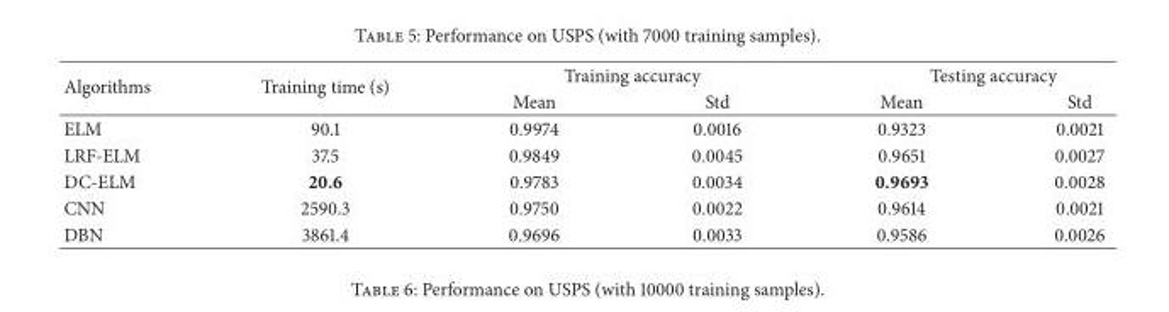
<table><thead><tr><td rowspan="2">Algorithms</td><td rowspan="2">Training time (s)</td><td colspan="2">Training accuracy</td><td colspan="2">Testing accuracy</td></tr><tr><td>Mean</td><td>Std</td><td>Mean</td><td>Std</td></tr></thead><tbody><tr><td>ELM</td><td>90.1</td><td>0.9974</td><td>0.0016</td><td>0.9323</td><td>0.0021</td></tr><tr><td>LRF-ELM</td><td>37.5</td><td>0.9849</td><td>0.0045</td><td>0.9651</td><td>0.0027</td></tr><tr><td>DC-ELM</td><td>20.6</td><td>0.9783</td><td>0.0034</td><td>0.9693</td><td>0.0028</td></tr><tr><td>CNN</td><td>2590.3</td><td>0.9750</td><td>0.0022</td><td>0.9614</td><td>0.0021</td></tr><tr><td>DBN</td><td>3861.4</td><td>0.9696</td><td>0.0033</td><td>0.9586</td><td>0.0026</td></tr></tbody></table>